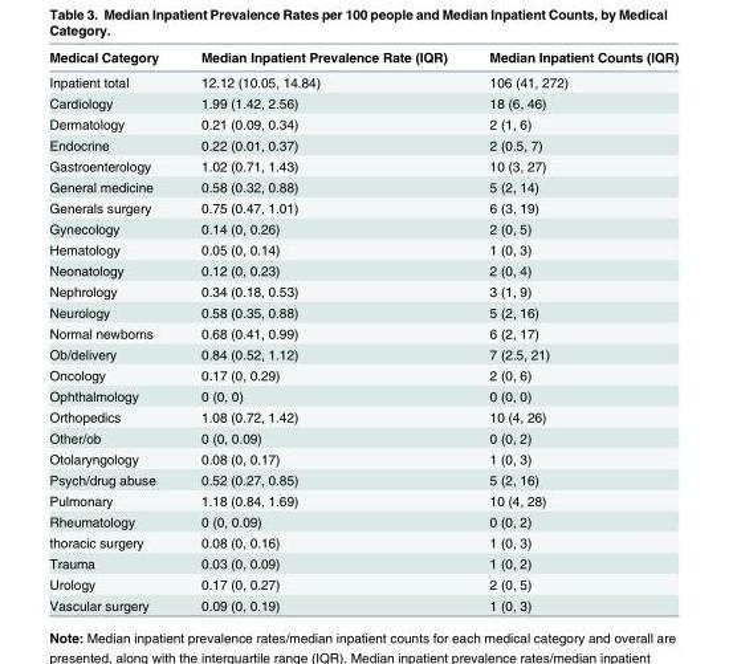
<table><thead><tr><td>Medical Category</td><td>Median Inpatient Prevalence Rate (IQR)</td><td>Median Inpatient Counts (IQR)</td></tr></thead><tbody><tr><td>Inpatient total</td><td>12.12 (10.05, 14.84)</td><td>106 (41, 272)</td></tr><tr><td>Cardiology</td><td>1.99 (1.42, 2.56)</td><td>18 (6, 46)</td></tr><tr><td>Dermatology</td><td>0.21 (0.09, 0.34)</td><td>2 (1, 6)</td></tr><tr><td>Endocrine</td><td>0.22 (0.01, 0.37)</td><td>2 (0.5, 7)</td></tr><tr><td>Gastroenterology</td><td>1.02 (0.71, 1.43)</td><td>10 (3, 27)</td></tr><tr><td>General medicine</td><td>0.58 (0.32, 0.88)</td><td>5 (2, 14)</td></tr><tr><td>Generals surgery</td><td>0.75 (0.47, 1.01)</td><td>6 (3, 19)</td></tr><tr><td>Gynecology</td><td>0.14 (0, 0.26)</td><td>2 (0, 5)</td></tr><tr><td>Hematology</td><td>0.05 (0, 0.14)</td><td>1 (0, 3)</td></tr><tr><td>Neonatology</td><td>0.12 (0, 0.23)</td><td>2 (0, 4)</td></tr><tr><td>Nephrology</td><td>0.34 (0.18, 0.53)</td><td>3 (1, 9)</td></tr><tr><td>Neurology</td><td>0.58 (0.35, 0.88)</td><td>5 (2, 16)</td></tr><tr><td>Normal newborns</td><td>0.68 (0.41, 0.99)</td><td>6 (2, 17)</td></tr><tr><td>Ob/delivery</td><td>0.84 (0.52, 1.12)</td><td>7 (2.5, 21)</td></tr><tr><td>Oncology</td><td>0.17 (0, 0.29)</td><td>2 (0, 6)</td></tr><tr><td>Ophthalmology</td><td>0 (0, 0)</td><td>0 (0, 0)</td></tr><tr><td>Orthopedics</td><td>1.08 (0.72, 1.42)</td><td>10 (4, 26)</td></tr><tr><td>Other/ob</td><td>0 (0, 0.09)</td><td>0 (0, 2)</td></tr><tr><td>Otolaryngology</td><td>0.08 (0, 0.17)</td><td>1 (0, 3)</td></tr><tr><td>Psych/drug abuse</td><td>0.52 (0.27, 0.85)</td><td>5 (2, 16)</td></tr><tr><td>Pulmonary</td><td>1.18 (0.84, 1.69)</td><td>10 (4, 28)</td></tr><tr><td>Rheumatology</td><td>0 (0, 0.09)</td><td>0 (0, 2)</td></tr><tr><td>thoracic surgery</td><td>0.08 (0, 0.16)</td><td>1 (0, 3)</td></tr><tr><td>Trauma</td><td>0.03 (0, 0.09)</td><td>1 (0, 2)</td></tr><tr><td>Urology</td><td>0.17 (0, 0.27)</td><td>2 (0, 5)</td></tr><tr><td>Vascular surgery</td><td>0.09 (0, 0.19)</td><td>1 (0, 3)</td></tr></tbody></table>